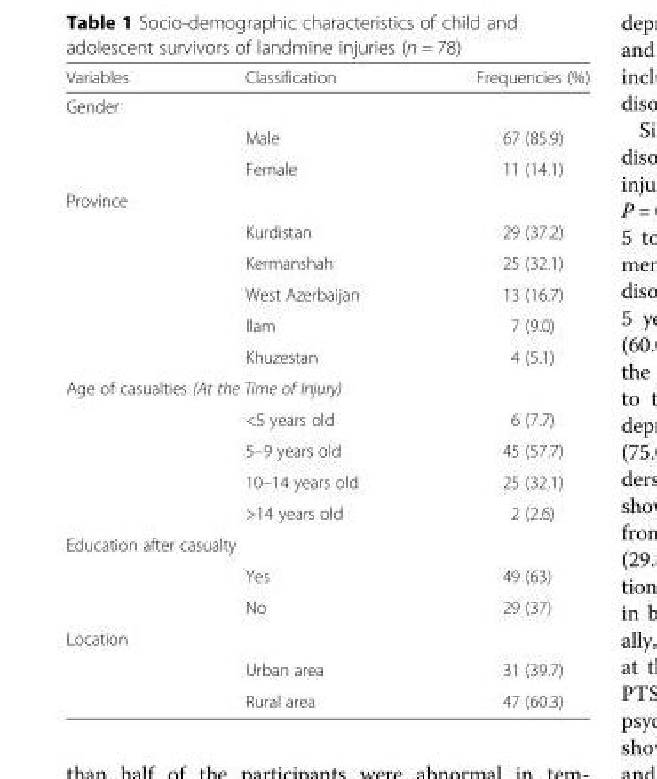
<table><thead><tr><td>Variables</td><td>Classification</td><td>Frequencies (%)</td></tr></thead><tbody><tr><td colspan="3">Gender</td></tr><tr><td></td><td>Male</td><td>67 (85.9)</td></tr><tr><td></td><td>Female</td><td>11 (14.1)</td></tr><tr><td colspan="3">Province</td></tr><tr><td></td><td>Kurdistan</td><td>29 (37.2)</td></tr><tr><td></td><td>Kermanshah</td><td>25 (32.1)</td></tr><tr><td></td><td>West Azerbaijan</td><td>13 (16.7)</td></tr><tr><td></td><td>Ilam</td><td>7 (9.0)</td></tr><tr><td></td><td>Khuzestan</td><td>4 (5.1)</td></tr><tr><td colspan="3">Age of casualties (At the Time of Injury)</td></tr><tr><td></td><td>&lt;5 years old</td><td>6 (7.7)</td></tr><tr><td></td><td>5–9 years old</td><td>45 (57.7)</td></tr><tr><td></td><td>10–14 years old</td><td>25 (32.1)</td></tr><tr><td></td><td>&gt;14 years old</td><td>2 (2.6)</td></tr><tr><td colspan="3">Education after casualty</td></tr><tr><td></td><td>Yes</td><td>49 (63)</td></tr><tr><td></td><td>No</td><td>29 (37)</td></tr><tr><td colspan="3">Location</td></tr><tr><td></td><td>Urban area</td><td>31 (39.7)</td></tr><tr><td></td><td>Rural area</td><td>47 (60.3)</td></tr></tbody></table>